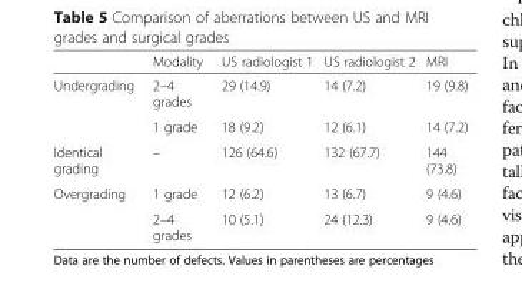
<table><thead><tr><td></td><td>Modality</td><td>US radiologist 1</td><td>US radiologist 2</td><td>MRI</td></tr></thead><tbody><tr><td rowspan="2">Undergrading</td><td>2–4 grades</td><td>29 (14.9)</td><td>14 (7.2)</td><td>19 (9.8)</td></tr><tr><td>1 grade</td><td>18 (9.2)</td><td>12 (6.1)</td><td>14 (7.2)</td></tr><tr><td>Identical grading</td><td>–</td><td>126 (64.6)</td><td>132 (67.7)</td><td>144 (73.8)</td></tr><tr><td rowspan="2">Overgrading</td><td>1 grade</td><td>12 (6.2)</td><td>13 (6.7)</td><td>9 (4.6)</td></tr><tr><td>2–4 grades</td><td>10 (5.1)</td><td>24 (12.3)</td><td>9 (4.6)</td></tr></tbody></table>